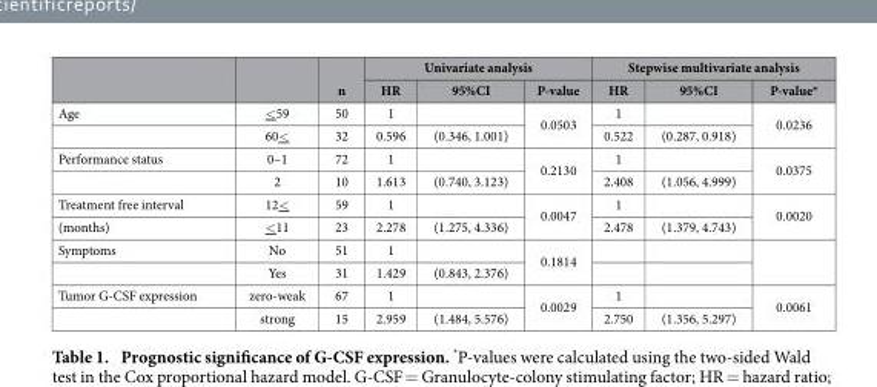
<table><thead><tr><td rowspan="2"></td><td rowspan="2"></td><td rowspan="2">n</td><td colspan="3">Univariate analysis</td><td colspan="3">Stepwise multivariate analysis</td></tr><tr><td>HR</td><td>95%CI</td><td>P-value</td><td>HR</td><td>95%CI</td><td>P-value*</td></tr></thead><tbody><tr><td rowspan="2">Age</td><td>&lt;59</td><td>50</td><td>1</td><td></td><td rowspan="2">0.0503</td><td>1</td><td></td><td rowspan="2">0.0236</td></tr><tr><td>60&lt;</td><td>32</td><td>0.596</td><td>(0.346, 1.001)</td><td>0.522</td><td>(0.287, 0.918)</td></tr><tr><td rowspan="2">Performance status</td><td>0–1</td><td>72</td><td>1</td><td></td><td rowspan="2">0.2130</td><td>1</td><td></td><td rowspan="2">0.0375</td></tr><tr><td>2</td><td>10</td><td>1.613</td><td>(0.740, 3.123)</td><td>2.408</td><td>(1.056, 4.999)</td></tr><tr><td>Treatment free interval</td><td>12&lt;</td><td>59</td><td>1</td><td></td><td rowspan="2">0.0047</td><td>1</td><td></td><td rowspan="2">0.0020</td></tr><tr><td>(months)</td><td>&lt;11</td><td>23</td><td>2.278</td><td>(1.275, 4.336)</td><td>2.478</td><td>(1.379, 4.743)</td></tr><tr><td rowspan="2">Symptoms</td><td>No</td><td>51</td><td>1</td><td></td><td rowspan="2">0.1814</td><td></td><td></td><td rowspan="2"></td></tr><tr><td>Yes</td><td>31</td><td>1.429</td><td>(0.843, 2.376)</td><td></td><td></td></tr><tr><td rowspan="2">Tumor G-CSF expression</td><td>zero-weak</td><td>67</td><td>1</td><td></td><td rowspan="2">0.0029</td><td>1</td><td></td><td rowspan="2">0.0061</td></tr><tr><td>strong</td><td>15</td><td>2.959</td><td>(1.484, 5.576)</td><td>2.750</td><td>(1.356, 5.297)</td></tr></tbody></table>